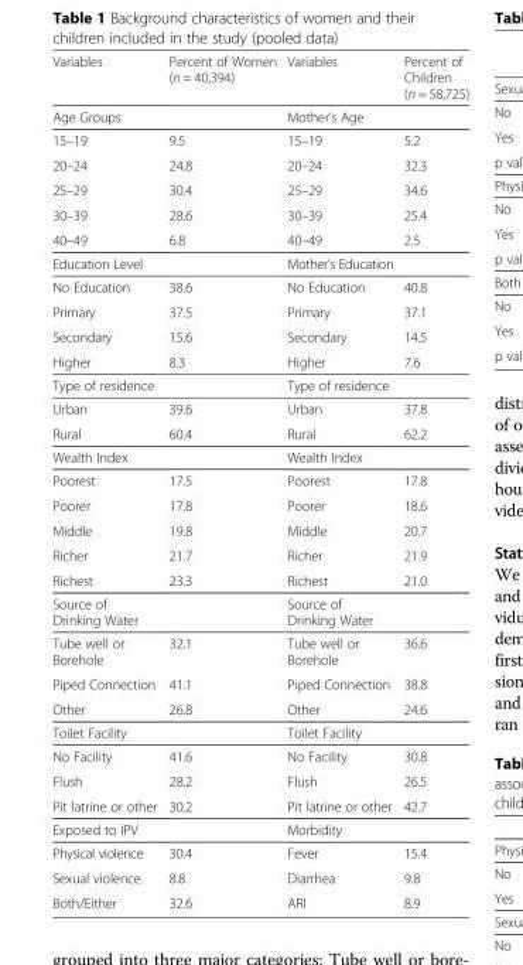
<table><thead><tr><td>Variables</td><td>Percent of Women (n = 40,394)</td><td>Variables</td><td>Percent of Children (n = 58,725)</td></tr></thead><tbody><tr><td>Age Groups</td><td></td><td>Mother’s Age</td><td></td></tr><tr><td>15–19</td><td>9.5</td><td>15–19</td><td>5.2</td></tr><tr><td>20–24</td><td>24.8</td><td>20–24</td><td>32.3</td></tr><tr><td>25–29</td><td>30.4</td><td>25–29</td><td>34.6</td></tr><tr><td>30–39</td><td>28.6</td><td>30–39</td><td>25.4</td></tr><tr><td>40–49</td><td>6.8</td><td>40–49</td><td>2.5</td></tr><tr><td>Education Level</td><td></td><td>Mother’s Education</td><td></td></tr><tr><td>No Education</td><td>38.6</td><td>No Education</td><td>40.8</td></tr><tr><td>Primary</td><td>37.5</td><td>Primary</td><td>37.1</td></tr><tr><td>Secondary</td><td>15.6</td><td>Secondary</td><td>14.5</td></tr><tr><td>Higher</td><td>8.3</td><td>Higher</td><td>7.6</td></tr><tr><td>Type of residence</td><td></td><td>Type of residence</td><td></td></tr><tr><td>Urban</td><td>39.6</td><td>Urban</td><td>37.8</td></tr><tr><td>Rural</td><td>60.4</td><td>Rural</td><td>62.2</td></tr><tr><td>Wealth Index</td><td></td><td>Wealth Index</td><td></td></tr><tr><td>Poorest</td><td>17.5</td><td>Poorest</td><td>17.8</td></tr><tr><td>Poorer</td><td>17.8</td><td>Poorer</td><td>18.6</td></tr><tr><td>Middle</td><td>19.8</td><td>Middle</td><td>20.7</td></tr><tr><td>Richer</td><td>21.7</td><td>Richer</td><td>21.9</td></tr><tr><td>Richest</td><td>23.3</td><td>Richest</td><td>21.0</td></tr><tr><td>Source of Drinking Water</td><td></td><td>Source of Drinking Water</td><td></td></tr><tr><td>Tube well or Borehole</td><td>32.1</td><td>Tube well or Borehole</td><td>36.6</td></tr><tr><td>Piped Connection</td><td>41.1</td><td>Piped Connection</td><td>38.8</td></tr><tr><td>Other</td><td>26.8</td><td>Other</td><td>24.6</td></tr><tr><td>Toilet Facility</td><td></td><td>Toilet Facility</td><td></td></tr><tr><td>No Facility</td><td>41.6</td><td>No Facility</td><td>30.8</td></tr><tr><td>Flush</td><td>28.2</td><td>Flush</td><td>26.5</td></tr><tr><td>Pit latrine or other</td><td>30.2</td><td>Pit latrine or other</td><td>42.7</td></tr><tr><td>Exposed to IPV</td><td></td><td>Morbidity</td><td></td></tr><tr><td>Physical violence</td><td>30.4</td><td>Fever</td><td>15.4</td></tr><tr><td>Sexual violence</td><td>8.8</td><td>Diarrhea</td><td>9.8</td></tr><tr><td>Both/Either</td><td>32.6</td><td>ARI</td><td>8.9</td></tr></tbody></table>